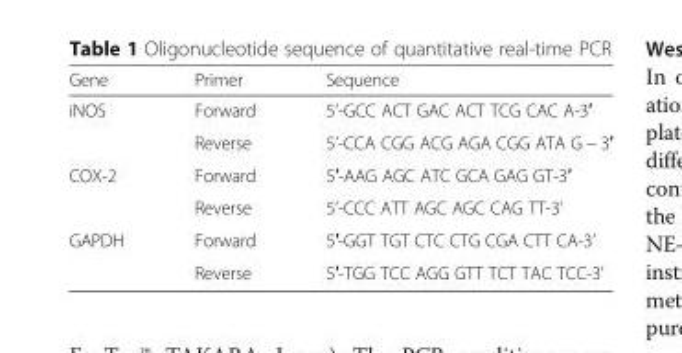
<table><thead><tr><td>Gene</td><td>Primer</td><td>Sequence</td></tr></thead><tbody><tr><td rowspan="2">iNOS</td><td>Forward</td><td>5’-GCC ACT GAC ACT TCG CAC A-3′</td></tr><tr><td>Reverse</td><td>5’-CCA CGG ACG AGA CGG ATA G − 3′</td></tr><tr><td rowspan="2">COX-2</td><td>Forward</td><td>5′-AAG AGC ATC GCA GAG GT-3′</td></tr><tr><td>Reverse</td><td>5’-CCC ATT AGC AGC CAG TT-3’</td></tr><tr><td rowspan="2">GAPDH</td><td>Forward</td><td>5′-GGT TGT CTC CTG CGA CTT CA-3’</td></tr><tr><td>Reverse</td><td>5′-TGG TCC AGG GTT TCT TAC TCC-3’</td></tr></tbody></table>